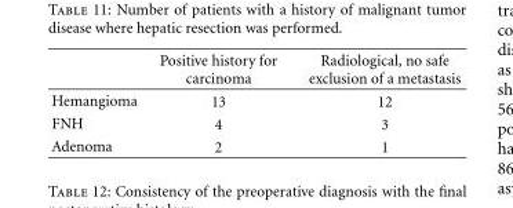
<table><thead><tr><td></td><td>Positive history for carcinoma</td><td>Radiological, no safe exclusion of a metastasis</td></tr></thead><tbody><tr><td>Hemangioma</td><td>13</td><td>12</td></tr><tr><td>FNH</td><td>4</td><td>3</td></tr><tr><td>Adenoma</td><td>2</td><td>1</td></tr></tbody></table>